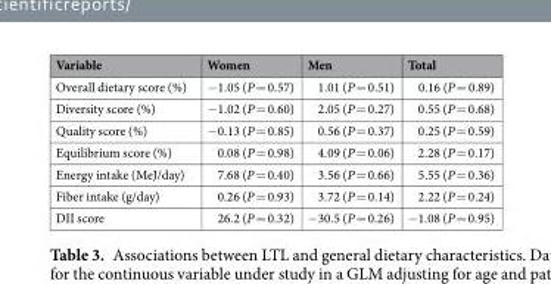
<table><thead><tr><td>Variable</td><td>Women</td><td>Men</td><td>Total</td></tr></thead><tbody><tr><td>Overall dietary score (%)</td><td>−1.05 (P = 0.57)</td><td>1.01 (P = 0.51)</td><td>0.16 (P = 0.89)</td></tr><tr><td>Diversity score (%)</td><td>−1.02 (P = 0.60)</td><td>2.05 (P = 0.27)</td><td>0.55 (P = 0.68)</td></tr><tr><td>Quality score (%)</td><td>−0.13 (P = 0.85)</td><td>0.56 (P = 0.37)</td><td>0.25 (P = 0.59)</td></tr><tr><td>Equilibrium score (%)</td><td>0.08 (P = 0.98)</td><td>4.09 (P = 0.06)</td><td>2.28 (P = 0.17)</td></tr><tr><td>Energy intake (MeJ/day)</td><td>7.68 (P = 0.40)</td><td>3.56 (P = 0.66)</td><td>5.55 (P = 0.36)</td></tr><tr><td>Fiber intake (g/day)</td><td>0.26 (P = 0.93)</td><td>3.72 (P = 0.14)</td><td>2.22 (P = 0.24)</td></tr><tr><td>DII score</td><td>26.2 (P = 0.32)</td><td>−30.5 (P = 0.26)</td><td>−1.08 (P = 0.95)</td></tr></tbody></table>